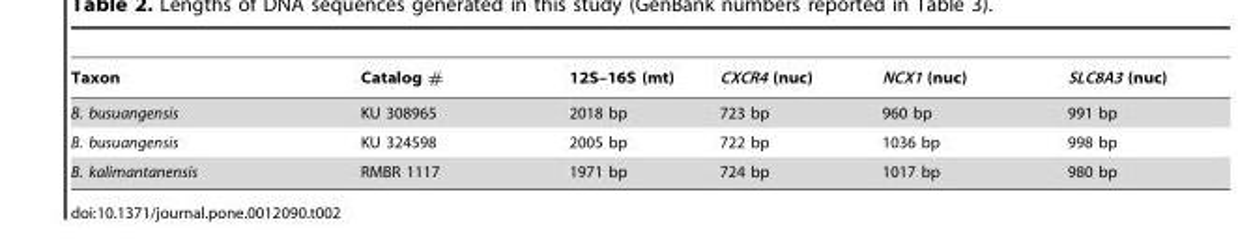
<table><thead><tr><td>Taxon</td><td>Catalog #</td><td>12S–16S (mt)</td><td>CXCR4 (nuc)</td><td>NCX1 (nuc)</td><td>SLC8A3 (nuc)</td></tr></thead><tbody><tr><td>B. busuangensis</td><td>KU 308965</td><td>2018 bp</td><td>723 bp</td><td>960 bp</td><td>991 bp</td></tr><tr><td>B. busuangensis</td><td>KU 324598</td><td>2005 bp</td><td>722 bp</td><td>1036 bp</td><td>998 bp</td></tr><tr><td>B. kalimantanensis</td><td>RMBR 1117</td><td>1971 bp</td><td>724 bp</td><td>1017 bp</td><td>980 bp</td></tr></tbody></table>